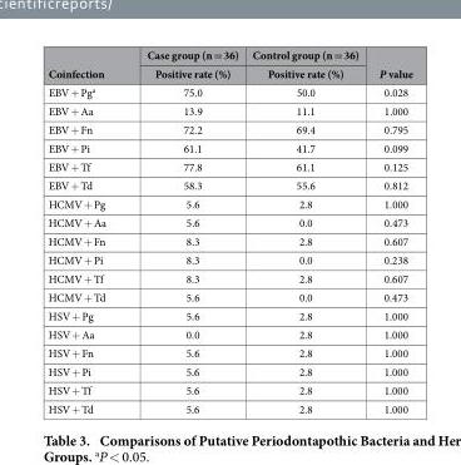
<table><thead><tr><td rowspan="2">Coinfection</td><td rowspan="2">Case group (n = 36) Positive rate (%)</td><td rowspan="2">Control group (n = 36) Positive rate (%)</td><td rowspan="2">P value</td></tr><tr></tr></thead><tbody><tr><td>EBV + Pg<sup>a</sup></td><td>75.0</td><td>50.0</td><td>0.028</td></tr><tr><td>EBV + Aa</td><td>13.9</td><td>11.1</td><td>1.000</td></tr><tr><td>EBV + Fn</td><td>72.2</td><td>69.4</td><td>0.795</td></tr><tr><td>EBV + Pi</td><td>61.1</td><td>41.7</td><td>0.099</td></tr><tr><td>EBV + Tf</td><td>77.8</td><td>61.1</td><td>0.125</td></tr><tr><td>EBV + Td</td><td>58.3</td><td>55.6</td><td>0.812</td></tr><tr><td>HCMV + Pg</td><td>5.6</td><td>2.8</td><td>1.000</td></tr><tr><td>HCMV + Aa</td><td>5.6</td><td>0.0</td><td>0.473</td></tr><tr><td>HCMV + Fn</td><td>8.3</td><td>2.8</td><td>0.607</td></tr><tr><td>HCMV + Pi</td><td>8.3</td><td>0.0</td><td>0.238</td></tr><tr><td>HCMV + Tf</td><td>8.3</td><td>2.8</td><td>0.607</td></tr><tr><td>HCMV + Td</td><td>5.6</td><td>0.0</td><td>0.473</td></tr><tr><td>HSV + Pg</td><td>5.6</td><td>2.8</td><td>1.000</td></tr><tr><td>HSV + Aa</td><td>0.0</td><td>2.8</td><td>1.000</td></tr><tr><td>HSV + Fn</td><td>5.6</td><td>2.8</td><td>1.000</td></tr><tr><td>HSV + Pi</td><td>5.6</td><td>2.8</td><td>1.000</td></tr><tr><td>HSV + Tf</td><td>5.6</td><td>2.8</td><td>1.000</td></tr><tr><td>HSV + Td</td><td>5.6</td><td>2.8</td><td>1.000</td></tr></tbody></table>